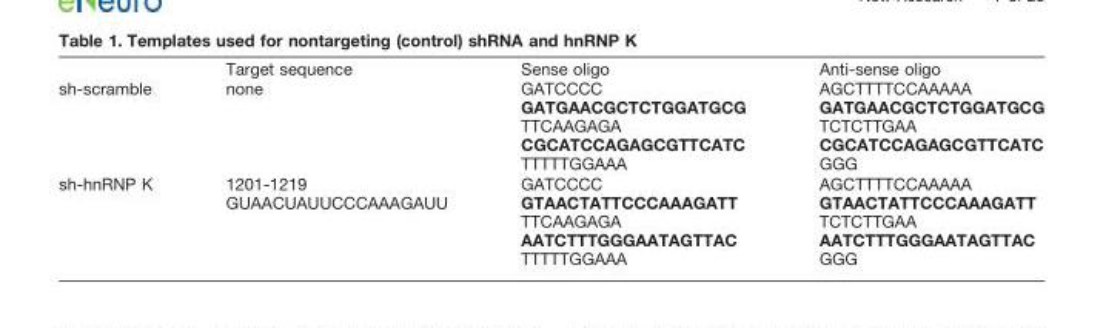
<table><thead><tr><td></td><td>Target sequence</td><td>Sense oligo</td><td>Anti-sense oligo</td></tr></thead><tbody><tr><td>sh-scramble</td><td>none</td><td>GATCCCC GATGAACGCTCTGGATGCG TTCAAGAGA CGCATCCAGAGCGTTCATC TTTTTGGAAA</td><td>AGCTTTTCCAAAAA GATGAACGCTCTGGATGCG TCTCTTGAA CGCATCCAGAGCGTTCATC GGG</td></tr><tr><td>sh-hnRNP K</td><td>1201-1219 GUAACUAUUCCCAAAGAUU</td><td>GATCCCC GTAACTATTCCCAAAGATT TTCAAGAGA AATCTTTGGGAATAGTTAC TTTTTGGAAA</td><td>AGCTTTTCCAAAAA GTAACTATTCCCAAAGATT TCTCTTGAA AATCTTTGGGAATAGTTAC GGG</td></tr></tbody></table>